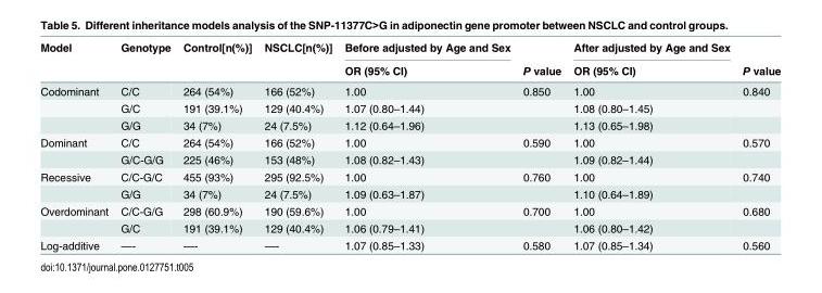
<table><thead><tr><td rowspan="2">Model</td><td rowspan="2">Genotype</td><td rowspan="2">Control[n(%)]</td><td rowspan="2">NSCLC[n(%)]</td><td rowspan="2">Before adjusted by Age and Sex OR (95% CI)</td><td rowspan="2">P value</td><td rowspan="2">After adjusted by Age and Sex OR (95% CI)</td><td rowspan="2">P value</td></tr><tr></tr></thead><tbody><tr><td rowspan="3">Codominant</td><td>C/C</td><td>264 (54%)</td><td>166 (52%)</td><td>1.00</td><td>0.850</td><td>1.00</td><td>0.840</td></tr><tr><td>G/C</td><td>191 (39.1%)</td><td>129 (40.4%)</td><td>1.07 (0.80–1.44)</td><td></td><td>1.08 (0.80–1.45)</td><td></td></tr><tr><td>G/G</td><td>34 (7%)</td><td>24 (7.5%)</td><td>1.12 (0.64–1.96)</td><td></td><td>1.13 (0.65–1.98)</td><td></td></tr><tr><td rowspan="2">Dominant</td><td>C/C</td><td>264 (54%)</td><td>166 (52%)</td><td>1.00</td><td>0.590</td><td>1.00</td><td>0.570</td></tr><tr><td>G/C-G/G</td><td>225 (46%)</td><td>153 (48%)</td><td>1.08 (0.82–1.43)</td><td></td><td>1.09 (0.82–1.44)</td><td></td></tr><tr><td rowspan="2">Recessive</td><td>C/C-G/C</td><td>455 (93%)</td><td>295 (92.5%)</td><td>1.00</td><td>0.760</td><td>1.00</td><td>0.740</td></tr><tr><td>G/G</td><td>34 (7%)</td><td>24 (7.5%)</td><td>1.09 (0.63–1.87)</td><td></td><td>1.10 (0.64–1.89)</td><td></td></tr><tr><td rowspan="2">Overdominant</td><td>C/C-G/G</td><td>298 (60.9%)</td><td>190 (59.6%)</td><td>1.00</td><td>0.700</td><td>1.00</td><td>0.680</td></tr><tr><td>G/C</td><td>191 (39.1%)</td><td>129 (40.4%)</td><td>1.06 (0.79–1.41)</td><td></td><td>1.06 (0.80–1.42)</td><td></td></tr><tr><td>Log-additive</td><td>—-</td><td>—-</td><td>—-</td><td>1.07 (0.85–1.33)</td><td>0.580</td><td>1.07 (0.85–1.34)</td><td>0.560</td></tr></tbody></table>